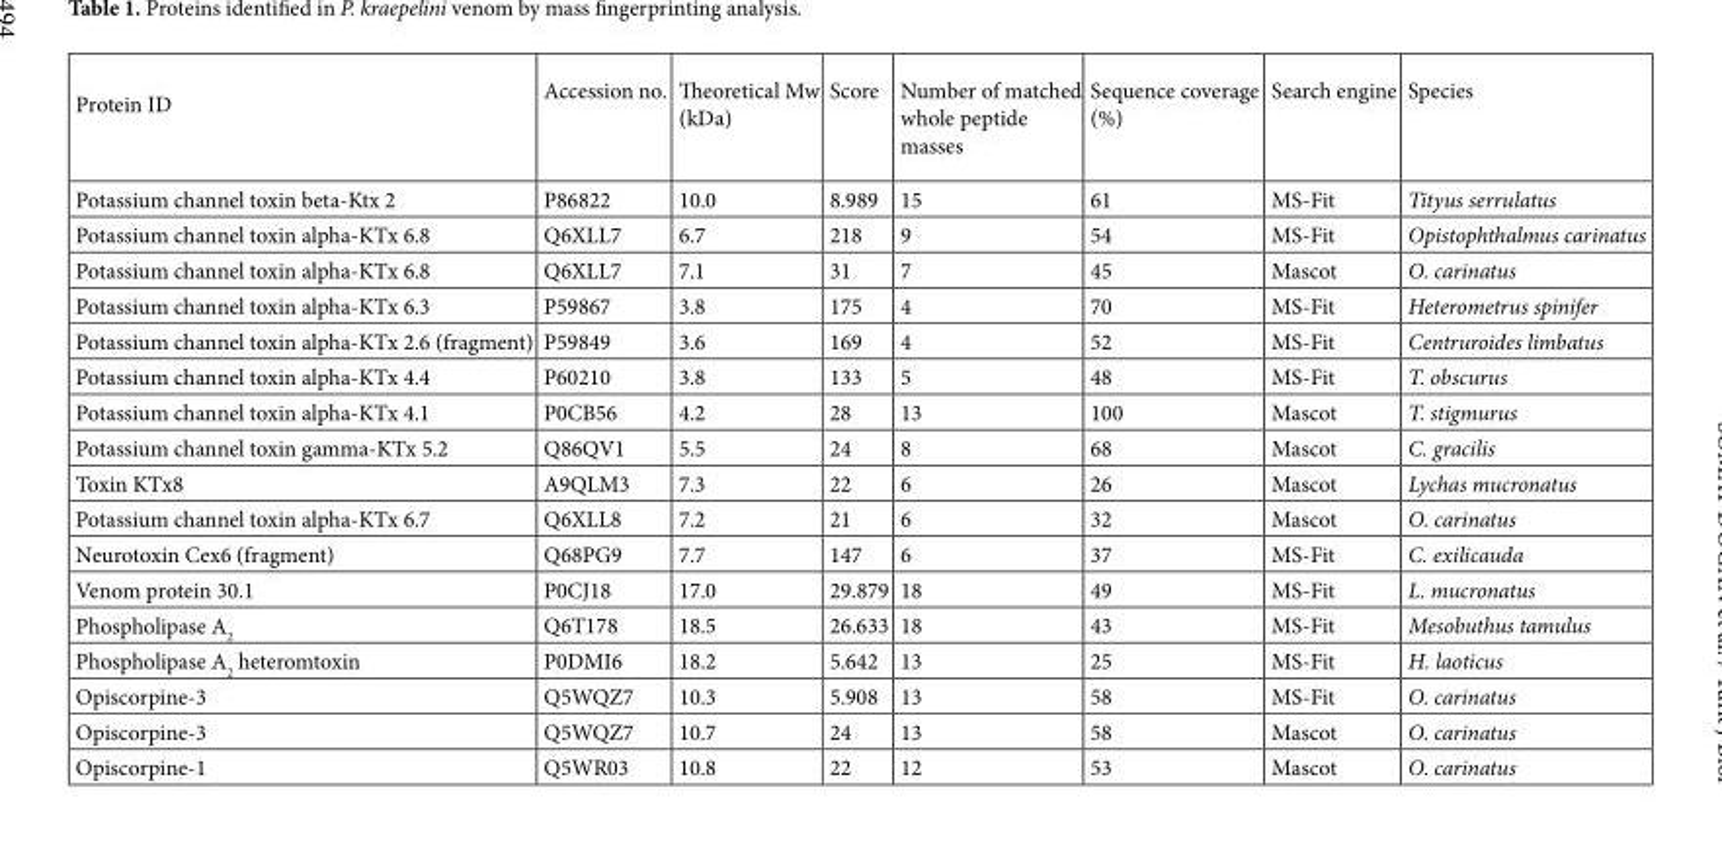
<table><thead><tr><td>Protein ID</td><td>Accession no.</td><td>Theoretical Mw (kDa)</td><td>Score</td><td>Number of matched whole peptide masses</td><td>Sequence coverage (%)</td><td>Search engine</td><td>Species</td></tr></thead><tbody><tr><td>Potassium channel toxin beta-Ktx 2</td><td>P86822</td><td>10.0</td><td>8.989</td><td>15</td><td>61</td><td>MS-Fit</td><td>Tityus serrulatus</td></tr><tr><td>Potassium channel toxin alpha-KTx 6.8</td><td>Q6XLL7</td><td>6.7</td><td>218</td><td>9</td><td>54</td><td>MS-Fit</td><td>Opistophthalmus carinatus</td></tr><tr><td>Potassium channel toxin alpha-KTx 6.8</td><td>Q6XLL7</td><td>7.1</td><td>31</td><td>7</td><td>45</td><td>Mascot</td><td>O. carinatus</td></tr><tr><td>Potassium channel toxin alpha-KTx 6.3</td><td>P59867</td><td>3.8</td><td>175</td><td>4</td><td>70</td><td>MS-Fit</td><td>Heterometrus spinifer</td></tr><tr><td>Potassium channel toxin alpha-KTx 2.6 (fragment)</td><td>P59849</td><td>3.6</td><td>169</td><td>4</td><td>52</td><td>MS-Fit</td><td>Centruroides limbatus</td></tr><tr><td>Potassium channel toxin alpha-KTx 4.4</td><td>P60210</td><td>3.8</td><td>133</td><td>5</td><td>48</td><td>MS-Fit</td><td>T. obscurus</td></tr><tr><td>Potassium channel toxin alpha-KTx 4.1</td><td>P0CB56</td><td>4.2</td><td>28</td><td>13</td><td>100</td><td>Mascot</td><td>T. stigmurus</td></tr><tr><td>Potassium channel toxin gamma-KTx 5.2</td><td>Q86QV1</td><td>5.5</td><td>24</td><td>8</td><td>68</td><td>Mascot</td><td>C. gracilis</td></tr><tr><td>Toxin KTx8</td><td>A9QLM3</td><td>7.3</td><td>22</td><td>6</td><td>26</td><td>Mascot</td><td>Lychas mucronatus</td></tr><tr><td>Potassium channel toxin alpha-KTx 6.7</td><td>Q6XLL8</td><td>7.2</td><td>21</td><td>6</td><td>32</td><td>Mascot</td><td>O. carinatus</td></tr><tr><td>Neurotoxin Cex6 (fragment)</td><td>Q68PG9</td><td>7.7</td><td>147</td><td>6</td><td>37</td><td>MS-Fit</td><td>C. exilicauda</td></tr><tr><td>Venom protein 30.1</td><td>P0CJ18</td><td>17.0</td><td>29.879</td><td>18</td><td>49</td><td>MS-Fit</td><td>L. mucronatus</td></tr><tr><td>Phospholipase A2</td><td>Q6T178</td><td>18.5</td><td>26.633</td><td>18</td><td>43</td><td>MS-Fit</td><td>Mesobuthus tamulus</td></tr><tr><td>Phospholipase A2 heteromtoxin</td><td>P0DMI6</td><td>18.2</td><td>5.642</td><td>13</td><td>25</td><td>MS-Fit</td><td>H. laoticus</td></tr><tr><td>Opiscorpine-3</td><td>Q5WQZ7</td><td>10.3</td><td>5.908</td><td>13</td><td>58</td><td>MS-Fit</td><td>O. carinatus</td></tr><tr><td>Opiscorpine-3</td><td>Q5WQZ7</td><td>10.7</td><td>24</td><td>13</td><td>58</td><td>Mascot</td><td>O. carinatus</td></tr><tr><td>Opiscorpine-1</td><td>Q5WR03</td><td>10.8</td><td>22</td><td>12</td><td>53</td><td>Mascot</td><td>O. carinatus</td></tr></tbody></table>